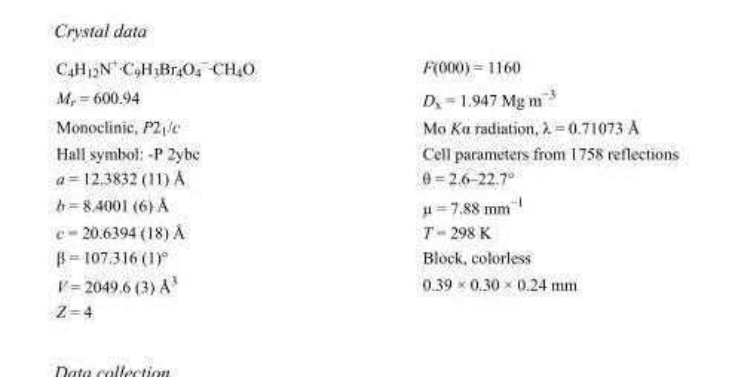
<table><tbody><tr><td>C<sub>4</sub>H<sub>12</sub>N<sup>+</sup>·C<sub>9</sub>H<sub>3</sub>Br<sub>4</sub>O<sub>4</sub> <sup>−</sup>·CH<sub>4</sub>O</td><td>F(000) = 1160</td></tr><tr><td>M<sub>r</sub> = 600.94</td><td>D<sub>x</sub> = 1.947 Mg m<sup>−3</sup></td></tr><tr><td>Monoclinic, P2<sub>1</sub>/c</td><td>Mo Kα radiation, λ = 0.71073 Å</td></tr><tr><td>Hall symbol: -P 2ybc</td><td>Cell parameters from 1758 reflections</td></tr><tr><td>a = 12.3832 (11) Å</td><td>θ = 2.6–22.7°</td></tr><tr><td>b = 8.4001 (6) Å</td><td>µ = 7.88 mm<sup>−1</sup></td></tr><tr><td>c = 20.6394 (18) Å</td><td>T = 298 K</td></tr><tr><td>β = 107.316 (1)°</td><td>Block, colorless</td></tr><tr><td>V = 2049.6 (3) Å<sup>3</sup></td><td>0.39 × 0.30 × 0.24 mm</td></tr><tr><td>Z = 4</td><td></td></tr></tbody></table>